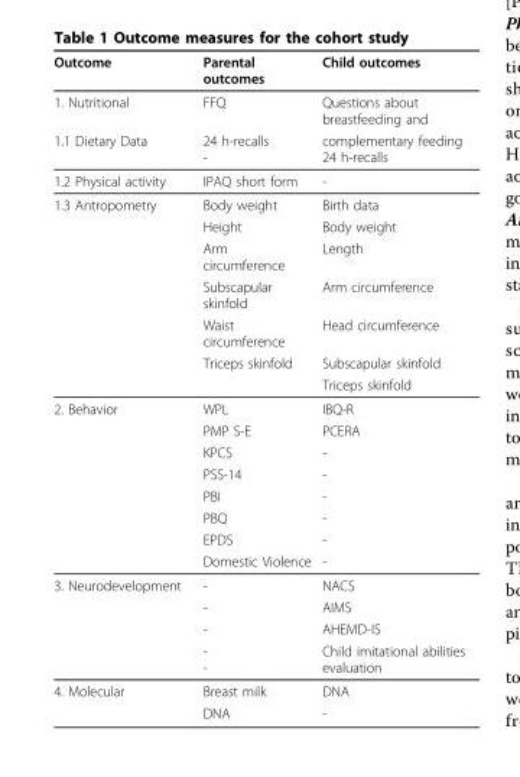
<table><thead><tr><td>Outcome</td><td>Parental outcomes</td><td>Child outcomes</td></tr></thead><tbody><tr><td>1. Nutritional</td><td>FFQ</td><td>Questions about breastfeeding and</td></tr><tr><td>1.1 Dietary Data</td><td>24 h-recalls -</td><td>complementary feeding 24 h-recalls</td></tr><tr><td>1.2 Physical activity</td><td>IPAQ short form</td><td>-</td></tr><tr><td rowspan="7">1.3 Antropometry</td><td>Body weight</td><td>Birth data</td></tr><tr><td>Height</td><td>Body weight</td></tr><tr><td>Arm circumference</td><td>Length</td></tr><tr><td>Subscapular skinfold</td><td>Arm circumference</td></tr><tr><td>Waist circumference</td><td>Head circumference</td></tr><tr><td>Triceps skinfold</td><td>Subscapular skinfold</td></tr><tr><td></td><td>Triceps skinfold</td></tr><tr><td rowspan="8">2. Behavior</td><td>WPL</td><td>IBQ-R</td></tr><tr><td>PMP S-E</td><td>PCERA</td></tr><tr><td>KPCS</td><td>-</td></tr><tr><td>PSS-14</td><td>-</td></tr><tr><td>PBI</td><td>-</td></tr><tr><td>PBQ</td><td>-</td></tr><tr><td>EPDS</td><td>-</td></tr><tr><td>Domestic Violence</td><td>-</td></tr><tr><td rowspan="4">3. Neurodevelopment</td><td>-</td><td>NACS</td></tr><tr><td>-</td><td>AIMS</td></tr><tr><td>-</td><td>AHEMD-IS</td></tr><tr><td>- -</td><td>Child imitational abilities evaluation</td></tr><tr><td rowspan="2">4. Molecular</td><td>Breast milk</td><td>DNA</td></tr><tr><td>DNA</td><td>-</td></tr></tbody></table>